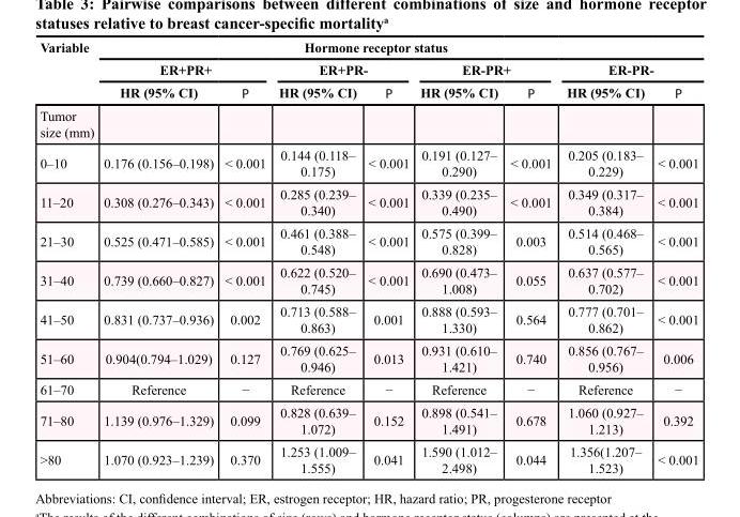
<table><thead><tr><td rowspan="3">Variable</td><td colspan="8">Hormone receptor status</td></tr><tr><td colspan="2">ER+PR+</td><td colspan="2">ER+PR-</td><td colspan="2">ER-PR+</td><td colspan="2">ER-PR-</td></tr><tr><td>HR (95% CI)</td><td>P</td><td>HR (95% CI)</td><td>P</td><td>HR (95% CI)</td><td>P</td><td>HR (95% CI)</td><td>P</td></tr></thead><tbody><tr><td colspan="9">Tumor size (mm)</td></tr><tr><td>0–10</td><td>0.176 (0.156–0.198)</td><td>&lt; 0.001</td><td>0.144 (0.118– 0.175)</td><td>&lt; 0.001</td><td>0.191 (0.127– 0.290)</td><td>&lt; 0.001</td><td>0.205 (0.183– 0.229)</td><td>&lt; 0.001</td></tr><tr><td>11–20</td><td>0.308 (0.276–0.343)</td><td>&lt; 0.001</td><td>0.285 (0.239– 0.340)</td><td>&lt; 0.001</td><td>0.339 (0.235– 0.490)</td><td>&lt; 0.001</td><td>0.349 (0.317– 0.384)</td><td>&lt; 0.001</td></tr><tr><td>21–30</td><td>0.525 (0.471–0.585)</td><td>&lt; 0.001</td><td>0.461 (0.388– 0.548)</td><td>&lt; 0.001</td><td>0.575 (0.399– 0.828)</td><td>0.003</td><td>0.514 (0.468– 0.565)</td><td>&lt; 0.001</td></tr><tr><td>31–40</td><td>0.739 (0.660–0.827)</td><td>&lt; 0.001</td><td>0.622 (0.520– 0.745)</td><td>&lt; 0.001</td><td>0.690 (0.473– 1.008)</td><td>0.055</td><td>0.637 (0.577– 0.702)</td><td>&lt; 0.001</td></tr><tr><td>41–50</td><td>0.831 (0.737–0.936)</td><td>0.002</td><td>0.713 (0.588– 0.863)</td><td>0.001</td><td>0.888 (0.593– 1.330)</td><td>0.564</td><td>0.777 (0.701– 0.862)</td><td>&lt; 0.001</td></tr><tr><td>51–60</td><td>0.904(0.794–1.029)</td><td>0.127</td><td>0.769 (0.625– 0.946)</td><td>0.013</td><td>0.931 (0.610– 1.421)</td><td>0.740</td><td>0.856 (0.767– 0.956)</td><td>0.006</td></tr><tr><td>61–70</td><td>Reference</td><td>−</td><td>Reference</td><td>−</td><td>Reference</td><td>−</td><td>Reference</td><td>−</td></tr><tr><td>71–80</td><td>1.139 (0.976–1.329)</td><td>0.099</td><td>0.828 (0.639– 1.072)</td><td>0.152</td><td>0.898 (0.541– 1.491)</td><td>0.678</td><td>1.060 (0.927– 1.213)</td><td>0.392</td></tr><tr><td>&gt;80</td><td>1.070 (0.923–1.239)</td><td>0.370</td><td>1.253 (1.009– 1.555)</td><td>0.041</td><td>1.590 (1.012– 2.498)</td><td>0.044</td><td>1.356(1.207– 1.523)</td><td>&lt; 0.001</td></tr></tbody></table>